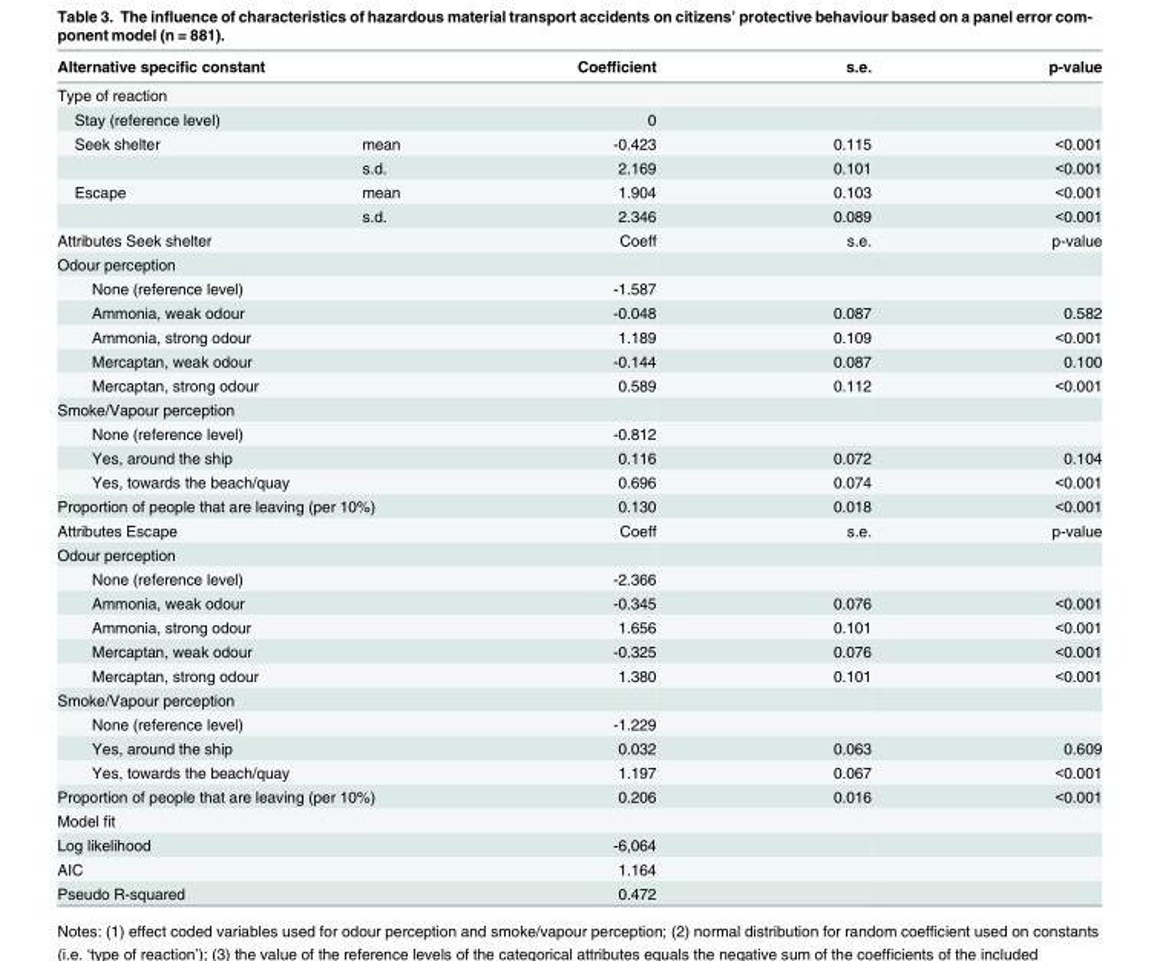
<table><thead><tr><td colspan="2">Alternative specific constant</td><td rowspan="2">Coefficient</td><td rowspan="2">s.e.</td><td rowspan="2">p-value</td></tr><tr><td>Type of reaction</td><td></td></tr></thead><tbody><tr><td colspan="2">Stay (reference level)</td><td>0</td><td></td><td></td></tr><tr><td rowspan="2">Seek shelter</td><td>mean</td><td>-0.423</td><td>0.115</td><td>&lt;0.001</td></tr><tr><td>s.d.</td><td>2.169</td><td>0.101</td><td>&lt;0.001</td></tr><tr><td rowspan="2">Escape</td><td>mean</td><td>1.904</td><td>0.103</td><td>&lt;0.001</td></tr><tr><td>s.d.</td><td>2.346</td><td>0.089</td><td>&lt;0.001</td></tr><tr><td colspan="2">Attributes Seek shelter</td><td>Coeff</td><td>s.e.</td><td>p-value</td></tr><tr><td colspan="5">Odour perception</td></tr><tr><td colspan="2">None (reference level)</td><td>-1.587</td><td></td><td></td></tr><tr><td colspan="2">Ammonia, weak odour</td><td>-0.048</td><td>0.087</td><td>0.582</td></tr><tr><td colspan="2">Ammonia, strong odour</td><td>1.189</td><td>0.109</td><td>&lt;0.001</td></tr><tr><td colspan="2">Mercaptan, weak odour</td><td>-0.144</td><td>0.087</td><td>0.100</td></tr><tr><td colspan="2">Mercaptan, strong odour</td><td>0.589</td><td>0.112</td><td>&lt;0.001</td></tr><tr><td colspan="5">Smoke/Vapour perception</td></tr><tr><td colspan="2">None (reference level)</td><td>-0.812</td><td></td><td></td></tr><tr><td colspan="2">Yes, around the ship</td><td>0.116</td><td>0.072</td><td>0.104</td></tr><tr><td colspan="2">Yes, towards the beach/quay</td><td>0.696</td><td>0.074</td><td>&lt;0.001</td></tr><tr><td colspan="2">Proportion of people that are leaving (per 10%)</td><td>0.130</td><td>0.018</td><td>&lt;0.001</td></tr><tr><td>Attributes Escape</td><td></td><td>Coeff</td><td>s.e.</td><td>p-value</td></tr><tr><td colspan="5">Odour perception</td></tr><tr><td colspan="2">None (reference level)</td><td>-2.366</td><td></td><td></td></tr><tr><td colspan="2">Ammonia, weak odour</td><td>-0.345</td><td>0.076</td><td>&lt;0.001</td></tr><tr><td colspan="2">Ammonia, strong odour</td><td>1.656</td><td>0.101</td><td>&lt;0.001</td></tr><tr><td colspan="2">Mercaptan, weak odour</td><td>-0.325</td><td>0.076</td><td>&lt;0.001</td></tr><tr><td colspan="2">Mercaptan, strong odour</td><td>1.380</td><td>0.101</td><td>&lt;0.001</td></tr><tr><td colspan="5">Smoke/Vapour perception</td></tr><tr><td colspan="2">None (reference level)</td><td>-1.229</td><td></td><td></td></tr><tr><td colspan="2">Yes, around the ship</td><td>0.032</td><td>0.063</td><td>0.609</td></tr><tr><td colspan="2">Yes, towards the beach/quay</td><td>1.197</td><td>0.067</td><td>&lt;0.001</td></tr><tr><td colspan="2">Proportion of people that are leaving (per 10%)</td><td>0.206</td><td>0.016</td><td>&lt;0.001</td></tr><tr><td colspan="5">Model fit</td></tr><tr><td>Log likelihood</td><td></td><td>-6,064</td><td></td><td></td></tr><tr><td>AIC</td><td></td><td>1.164</td><td></td><td></td></tr><tr><td>Pseudo R-squared</td><td></td><td>0.472</td><td></td><td></td></tr></tbody></table>